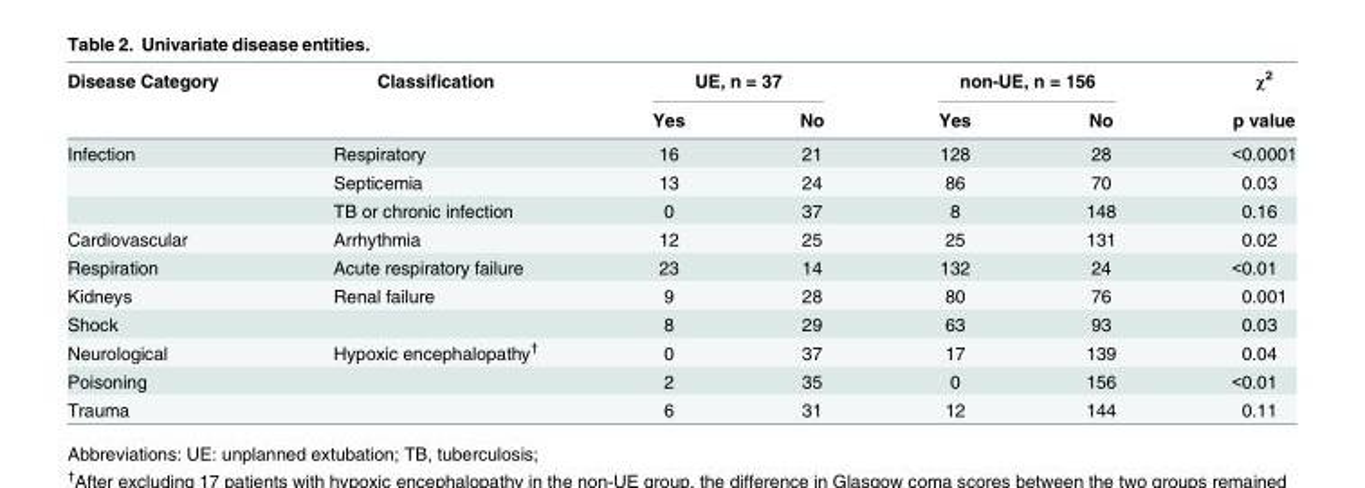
<table><thead><tr><td rowspan="2">Disease Category</td><td rowspan="2">Classification</td><td colspan="2">UE, n = 37</td><td colspan="2">non-UE, n = 156</td><td rowspan="2">χ<sup>2</sup> p value</td></tr><tr><td>Yes</td><td>No</td><td>Yes</td><td>No</td></tr></thead><tbody><tr><td rowspan="3">Infection</td><td>Respiratory</td><td>16</td><td>21</td><td>128</td><td>28</td><td>&lt;0.0001</td></tr><tr><td>Septicemia</td><td>13</td><td>24</td><td>86</td><td>70</td><td>0.03</td></tr><tr><td>TB or chronic infection</td><td>0</td><td>37</td><td>8</td><td>148</td><td>0.16</td></tr><tr><td>Cardiovascular</td><td>Arrhythmia</td><td>12</td><td>25</td><td>25</td><td>131</td><td>0.02</td></tr><tr><td>Respiration</td><td>Acute respiratory failure</td><td>23</td><td>14</td><td>132</td><td>24</td><td>&lt;0.01</td></tr><tr><td>Kidneys</td><td>Renal failure</td><td>9</td><td>28</td><td>80</td><td>76</td><td>0.001</td></tr><tr><td>Shock</td><td></td><td>8</td><td>29</td><td>63</td><td>93</td><td>0.03</td></tr><tr><td>Neurological</td><td>Hypoxic encephalopathy<sup>†</sup></td><td>0</td><td>37</td><td>17</td><td>139</td><td>0.04</td></tr><tr><td>Poisoning</td><td></td><td>2</td><td>35</td><td>0</td><td>156</td><td>&lt;0.01</td></tr><tr><td>Trauma</td><td></td><td>6</td><td>31</td><td>12</td><td>144</td><td>0.11</td></tr></tbody></table>